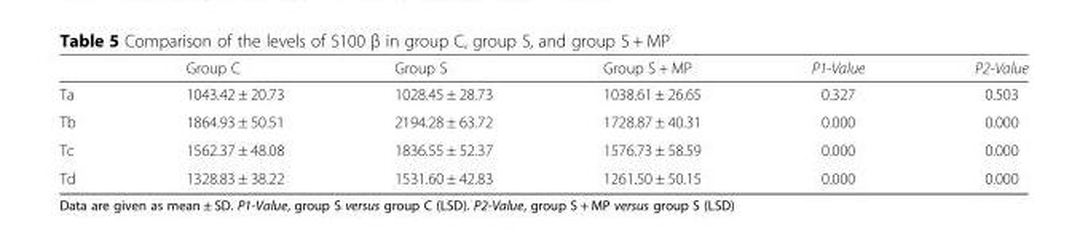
<table><thead><tr><td></td><td>Group C</td><td>Group S</td><td>Group S + MP</td><td>P1-Value</td><td>P2-Value</td></tr></thead><tbody><tr><td>Ta</td><td>1043.42 ± 20.73</td><td>1028.45 ± 28.73</td><td>1038.61 ± 26.65</td><td>0.327</td><td>0.503</td></tr><tr><td>Tb</td><td>1864.93 ± 50.51</td><td>2194.28 ± 63.72</td><td>1728.87 ± 40.31</td><td>0.000</td><td>0.000</td></tr><tr><td>Tc</td><td>1562.37 ± 48.08</td><td>1836.55 ± 52.37</td><td>1576.73 ± 58.59</td><td>0.000</td><td>0.000</td></tr><tr><td>Td</td><td>1328.83 ± 38.22</td><td>1531.60 ± 42.83</td><td>1261.50 ± 50.15</td><td>0.000</td><td>0.000</td></tr></tbody></table>